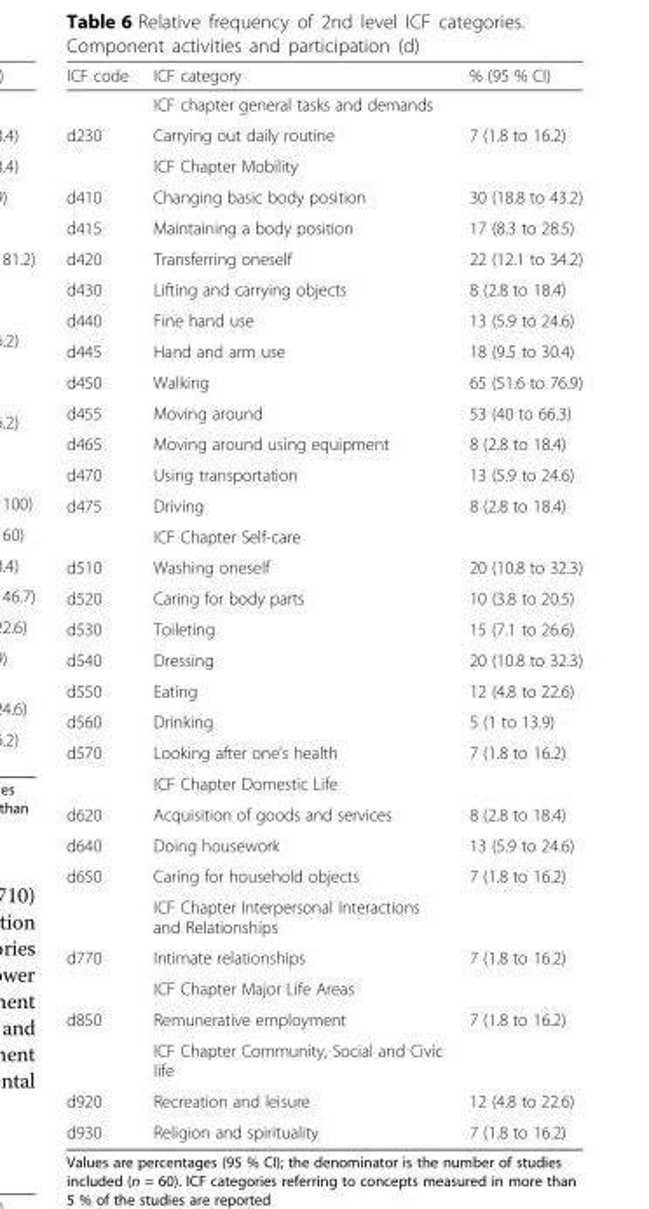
<table><thead><tr><td>ICF code</td><td>ICF category</td><td>% (95 % CI)</td></tr></thead><tbody><tr><td></td><td>ICF chapter general tasks and demands</td><td></td></tr><tr><td rowspan="2">d230</td><td>Carrying out daily routine</td><td>7 (1.8 to 16.2)</td></tr><tr><td>ICF Chapter Mobility</td><td></td></tr><tr><td>d410</td><td>Changing basic body position</td><td>30 (18.8 to 43.2)</td></tr><tr><td>d415</td><td>Maintaining a body position</td><td>17 (8.3 to 28.5)</td></tr><tr><td>d420</td><td>Transferring oneself</td><td>22 (12.1 to 34.2)</td></tr><tr><td>d430</td><td>Lifting and carrying objects</td><td>8 (2.8 to 18.4)</td></tr><tr><td>d440</td><td>Fine hand use</td><td>13 (5.9 to 24.6)</td></tr><tr><td>d445</td><td>Hand and arm use</td><td>18 (9.5 to 30.4)</td></tr><tr><td>d450</td><td>Walking</td><td>65 (51.6 to 76.9)</td></tr><tr><td>d455</td><td>Moving around</td><td>53 (40 to 66.3)</td></tr><tr><td>d465</td><td>Moving around using equipment</td><td>8 (2.8 to 18.4)</td></tr><tr><td>d470</td><td>Using transportation</td><td>13 (5.9 to 24.6)</td></tr><tr><td rowspan="2">d475</td><td>Driving</td><td>8 (2.8 to 18.4)</td></tr><tr><td>ICF Chapter Self-care</td><td></td></tr><tr><td>d510</td><td>Washing oneself</td><td>20 (10.8 to 32.3)</td></tr><tr><td>d520</td><td>Caring for body parts</td><td>10 (3.8 to 20.5)</td></tr><tr><td>d530</td><td>Toileting</td><td>15 (7.1 to 26.6)</td></tr><tr><td>d540</td><td>Dressing</td><td>20 (10.8 to 32.3)</td></tr><tr><td>d550</td><td>Eating</td><td>12 (4.8 to 22.6)</td></tr><tr><td>d560</td><td>Drinking</td><td>5 (1 to 13.9)</td></tr><tr><td rowspan="2">d570</td><td>Looking after one’s health</td><td>7 (1.8 to 16.2)</td></tr><tr><td>ICF Chapter Domestic Life</td><td></td></tr><tr><td>d620</td><td>Acquisition of goods and services</td><td>8 (2.8 to 18.4)</td></tr><tr><td>d640</td><td>Doing housework</td><td>13 (5.9 to 24.6)</td></tr><tr><td rowspan="2">d650</td><td>Caring for household objects</td><td>7 (1.8 to 16.2)</td></tr><tr><td>ICF Chapter Interpersonal Interactions and Relationships</td><td></td></tr><tr><td rowspan="2">d770</td><td>Intimate relationships</td><td>7 (1.8 to 16.2)</td></tr><tr><td>ICF Chapter Major Life Areas</td><td></td></tr><tr><td rowspan="2">d850</td><td>Remunerative employment</td><td>7 (1.8 to 16.2)</td></tr><tr><td>ICF Chapter Community, Social and Civic life</td><td></td></tr><tr><td>d920</td><td>Recreation and leisure</td><td>12 (4.8 to 22.6)</td></tr><tr><td>d930</td><td>Religion and spirituality</td><td>7 (1.8 to 16.2)</td></tr></tbody></table>